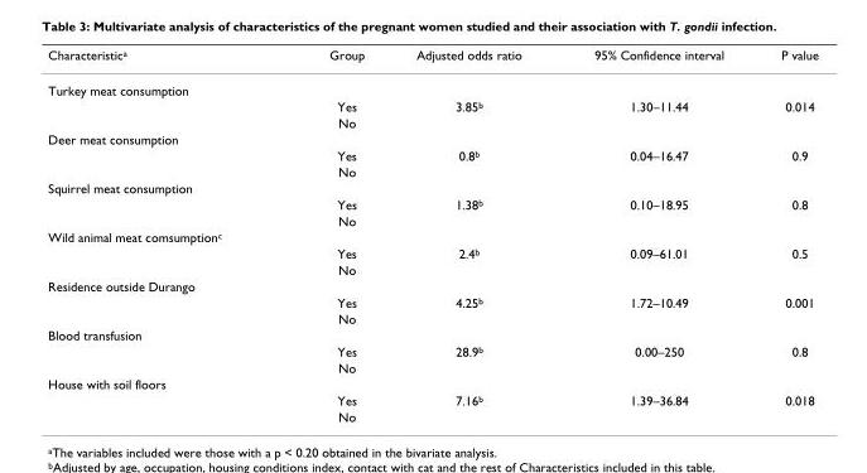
<table><thead><tr><td>Characteristic<sup>a</sup></td><td>Group</td><td>Adjusted odds ratio</td><td>95% Confidence interval</td><td>P value</td></tr></thead><tbody><tr><td colspan="5">Turkey meat consumption</td></tr><tr><td></td><td>Yes</td><td>3.85<sup>b</sup></td><td>1.30–11.44</td><td>0.014</td></tr><tr><td></td><td>No</td><td></td><td></td><td></td></tr><tr><td colspan="5">Deer meat consumption</td></tr><tr><td></td><td>Yes</td><td>0.8<sup>b</sup></td><td>0.04–16.47</td><td>0.9</td></tr><tr><td></td><td>No</td><td></td><td></td><td></td></tr><tr><td colspan="5">Squirrel meat consumption</td></tr><tr><td></td><td>Yes</td><td>1.38<sup>b</sup></td><td>0.10–18.95</td><td>0.8</td></tr><tr><td></td><td>No</td><td></td><td></td><td></td></tr><tr><td colspan="5">Wild animal meat comsumption<sup>c</sup></td></tr><tr><td></td><td>Yes</td><td>2.4<sup>b</sup></td><td>0.09–61.01</td><td>0.5</td></tr><tr><td></td><td>No</td><td></td><td></td><td></td></tr><tr><td colspan="5">Residence outside Durango</td></tr><tr><td></td><td>Yes</td><td>4.25<sup>b</sup></td><td>1.72–10.49</td><td>0.001</td></tr><tr><td></td><td>No</td><td></td><td></td><td></td></tr><tr><td colspan="5">Blood transfusion</td></tr><tr><td></td><td>Yes</td><td>28.9<sup>b</sup></td><td>0.00–250</td><td>0.8</td></tr><tr><td></td><td>No</td><td></td><td></td><td></td></tr><tr><td colspan="5">House with soil floors</td></tr><tr><td></td><td>Yes</td><td>7.16<sup>b</sup></td><td>1.39–36.84</td><td>0.018</td></tr><tr><td></td><td>No</td><td></td><td></td><td></td></tr></tbody></table>